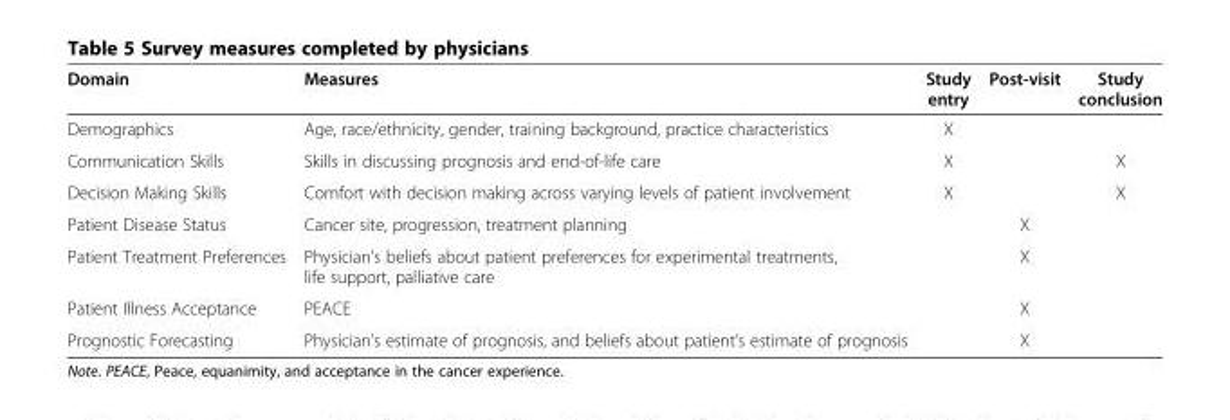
<table><thead><tr><td>Domain</td><td>Measures</td><td>Study entry</td><td>Post-visit</td><td>Study conclusion</td></tr></thead><tbody><tr><td>Demographics</td><td>Age, race/ethnicity, gender, training background, practice characteristics</td><td>X</td><td></td><td></td></tr><tr><td>Communication Skills</td><td>Skills in discussing prognosis and end-of-life care</td><td>X</td><td></td><td>X</td></tr><tr><td>Decision Making Skills</td><td>Comfort with decision making across varying levels of patient involvement</td><td>X</td><td></td><td>X</td></tr><tr><td>Patient Disease Status</td><td>Cancer site, progression, treatment planning</td><td></td><td>X</td><td></td></tr><tr><td>Patient Treatment Preferences</td><td>Physician’s beliefs about patient preferences for experimental treatments, life support, palliative care</td><td></td><td>X</td><td></td></tr><tr><td>Patient Illness Acceptance</td><td>PEACE</td><td></td><td>X</td><td></td></tr><tr><td>Prognostic Forecasting</td><td>Physician’s estimate of prognosis, and beliefs about patient’s estimate of prognosis</td><td></td><td>X</td><td></td></tr></tbody></table>